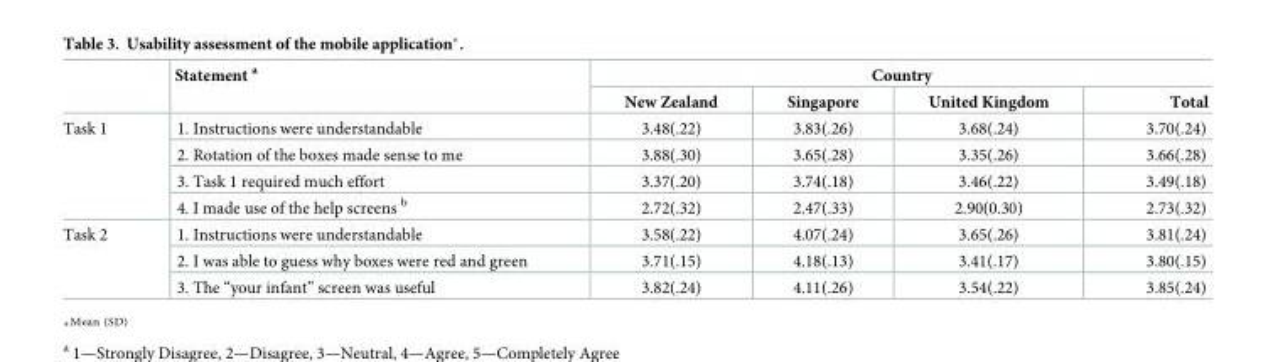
<table><thead><tr><td rowspan="2"></td><td rowspan="2">Statement <sup>a</sup></td><td colspan="4">Country</td></tr><tr><td>New Zealand</td><td>Singapore</td><td>United Kingdom</td><td>Total</td></tr></thead><tbody><tr><td rowspan="4">Task 1</td><td>1. Instructions were understandable</td><td>3.48(.22)</td><td>3.83(.26)</td><td>3.68(.24)</td><td>3.70(.24)</td></tr><tr><td>2. Rotation of the boxes made sense to me</td><td>3.88(.30)</td><td>3.65(.28)</td><td>3.35(.26)</td><td>3.66(.28)</td></tr><tr><td>3. Task 1 required much effort</td><td>3.37(.20)</td><td>3.74(.18)</td><td>3.46(.22)</td><td>3.49(.18)</td></tr><tr><td>4. I made use of the help screens <sup>b</sup></td><td>2.72(.32)</td><td>2.47(.33)</td><td>2.90(0.30)</td><td>2.73(.32)</td></tr><tr><td rowspan="3">Task 2</td><td>1. Instructions were understandable</td><td>3.58(.22)</td><td>4.07(.24)</td><td>3.65(.26)</td><td>3.81(.24)</td></tr><tr><td>2. I was able to guess why boxes were red and green</td><td>3.71(.15)</td><td>4.18(.13)</td><td>3.41(.17)</td><td>3.80(.15)</td></tr><tr><td>3. The “your infant” screen was useful</td><td>3.82(.24)</td><td>4.11(.26)</td><td>3.54(.22)</td><td>3.85(.24)</td></tr></tbody></table>